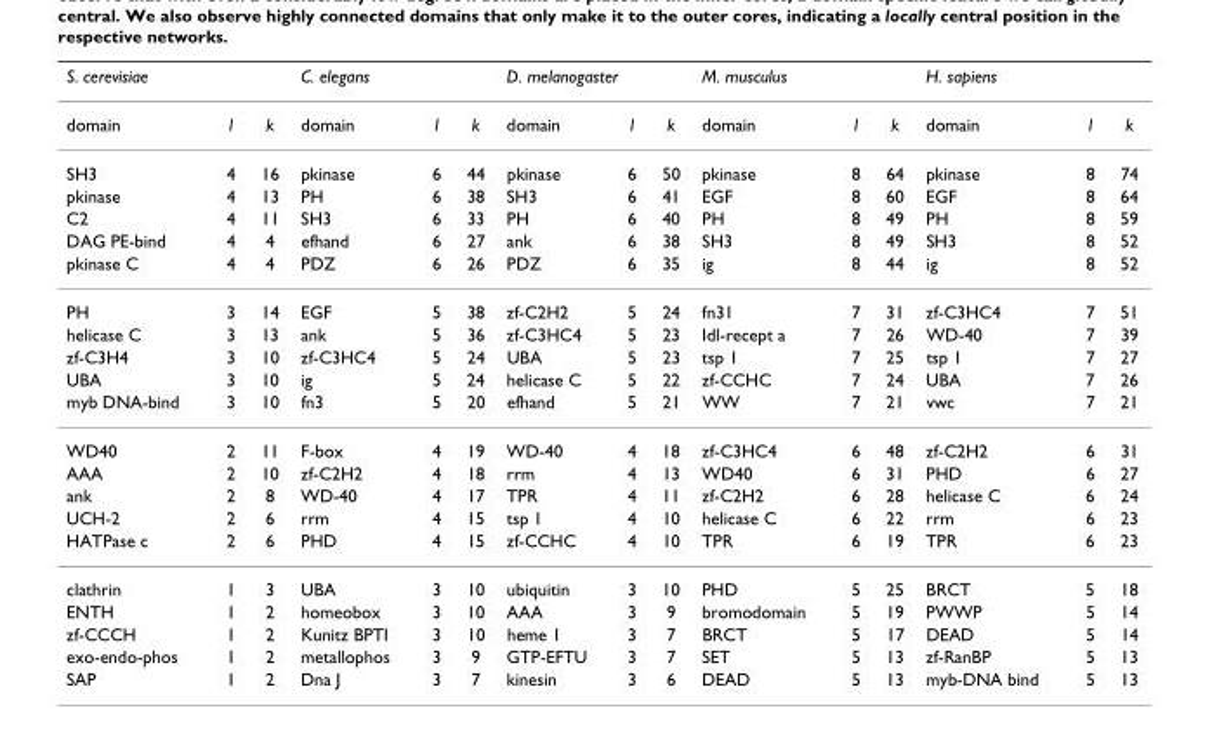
<table><thead><tr><td colspan="3">S. cerevisiae</td><td colspan="3">C. elegans</td><td colspan="3">D. melanogaster</td><td colspan="3">M. musculus</td><td colspan="3">H. sapiens</td></tr><tr><td>domain</td><td>l</td><td>k</td><td>domain</td><td>l</td><td>k</td><td>domain</td><td>l</td><td>k</td><td>domain</td><td>l</td><td>k</td><td>domain</td><td>l</td><td>k</td></tr></thead><tbody><tr><td>SH3</td><td>4</td><td>16</td><td>pkinase</td><td>6</td><td>44</td><td>pkinase</td><td>6</td><td>50</td><td>pkinase</td><td>8</td><td>64</td><td>pkinase</td><td>8</td><td>74</td></tr><tr><td>pkinase</td><td>4</td><td>13</td><td>PH</td><td>6</td><td>38</td><td>SH3</td><td>6</td><td>41</td><td>EGF</td><td>8</td><td>60</td><td>EGF</td><td>8</td><td>64</td></tr><tr><td>C2</td><td>4</td><td>11</td><td>SH3</td><td>6</td><td>33</td><td>PH</td><td>6</td><td>40</td><td>PH</td><td>8</td><td>49</td><td>PH</td><td>8</td><td>59</td></tr><tr><td>DAG PE-bind</td><td>4</td><td>4</td><td>efhand</td><td>6</td><td>27</td><td>ank</td><td>6</td><td>38</td><td>SH3</td><td>8</td><td>49</td><td>SH3</td><td>8</td><td>52</td></tr><tr><td>pkinase C</td><td>4</td><td>4</td><td>PDZ</td><td>6</td><td>26</td><td>PDZ</td><td>6</td><td>35</td><td>ig</td><td>8</td><td>44</td><td>ig</td><td>8</td><td>52</td></tr><tr><td>PH</td><td>3</td><td>14</td><td>EGF</td><td>5</td><td>38</td><td>zf-C2H2</td><td>5</td><td>24</td><td>fn31</td><td>7</td><td>31</td><td>zf-C3HC4</td><td>7</td><td>51</td></tr><tr><td>helicase C</td><td>3</td><td>13</td><td>ank</td><td>5</td><td>36</td><td>zf-C3HC4</td><td>5</td><td>23</td><td>Idl-recept a</td><td>7</td><td>26</td><td>WD-40</td><td>7</td><td>39</td></tr><tr><td>zf-C3H4</td><td>3</td><td>10</td><td>zf-C3HC4</td><td>5</td><td>24</td><td>UBA</td><td>5</td><td>23</td><td>tsp 1</td><td>7</td><td>25</td><td>tsp 1</td><td>7</td><td>27</td></tr><tr><td>UBA</td><td>3</td><td>10</td><td>ig</td><td>5</td><td>24</td><td>helicase C</td><td>5</td><td>22</td><td>zf-CCHC</td><td>7</td><td>24</td><td>UBA</td><td>7</td><td>26</td></tr><tr><td>myb DNA-bind</td><td>3</td><td>10</td><td>fn3</td><td>5</td><td>20</td><td>efhand</td><td>5</td><td>21</td><td>WW</td><td>7</td><td>21</td><td>vwc</td><td>7</td><td>21</td></tr><tr><td>WD40</td><td>2</td><td>11</td><td>F-box</td><td>4</td><td>19</td><td>WD-40</td><td>4</td><td>18</td><td>zf-C3HC4</td><td>6</td><td>48</td><td>zf-C2H2</td><td>6</td><td>31</td></tr><tr><td>AAA</td><td>2</td><td>10</td><td>zf-C2H2</td><td>4</td><td>18</td><td>rrm</td><td>4</td><td>13</td><td>WD40</td><td>6</td><td>31</td><td>PHD</td><td>6</td><td>27</td></tr><tr><td>ank</td><td>2</td><td>8</td><td>WD-40</td><td>4</td><td>17</td><td>TPR</td><td>4</td><td>11</td><td>zf-C2H2</td><td>6</td><td>28</td><td>helicase C</td><td>6</td><td>24</td></tr><tr><td>UCH-2</td><td>2</td><td>6</td><td>rrm</td><td>4</td><td>15</td><td>tsp 1</td><td>4</td><td>10</td><td>helicase C</td><td>6</td><td>22</td><td>rrm</td><td>6</td><td>23</td></tr><tr><td>HATPase c</td><td>2</td><td>6</td><td>PHD</td><td>4</td><td>15</td><td>zf-CCHC</td><td>4</td><td>10</td><td>TPR</td><td>6</td><td>19</td><td>TPR</td><td>6</td><td>23</td></tr><tr><td>clathrin</td><td>1</td><td>3</td><td>UBA</td><td>3</td><td>10</td><td>ubiquitin</td><td>3</td><td>10</td><td>PHD</td><td>5</td><td>25</td><td>BRCT</td><td>5</td><td>18</td></tr><tr><td>ENTH</td><td>1</td><td>2</td><td>homeobox</td><td>3</td><td>10</td><td>AAA</td><td>3</td><td>9</td><td>bromodomain</td><td>5</td><td>19</td><td>PWWP</td><td>5</td><td>14</td></tr><tr><td>zf-CCCH</td><td>1</td><td>2</td><td>Kunitz BPTI</td><td>3</td><td>10</td><td>heme 1</td><td>3</td><td>7</td><td>BRCT</td><td>5</td><td>17</td><td>DEAD</td><td>5</td><td>14</td></tr><tr><td>exo-endo-phos</td><td>1</td><td>2</td><td>metallophos</td><td>3</td><td>9</td><td>GTP-EFTU</td><td>3</td><td>7</td><td>SET</td><td>5</td><td>13</td><td>zf-RanBP</td><td>5</td><td>13</td></tr><tr><td>SAP</td><td>1</td><td>2</td><td>Dna J</td><td>3</td><td>7</td><td>kinesin</td><td>3</td><td>6</td><td>DEAD</td><td>5</td><td>13</td><td>myb-DNA bind</td><td>5</td><td>13</td></tr></tbody></table>